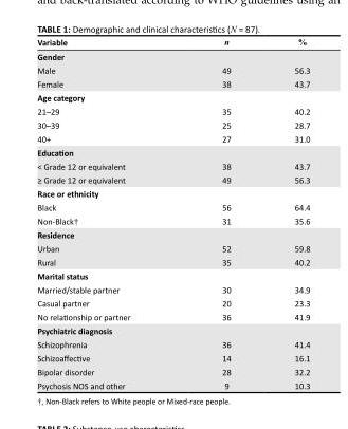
<table><thead><tr><td>Variable</td><td>n</td><td>%</td></tr></thead><tbody><tr><td colspan="3">Gender</td></tr><tr><td>Male</td><td>49</td><td>56.3</td></tr><tr><td>Female</td><td>38</td><td>43.7</td></tr><tr><td colspan="3">Age category</td></tr><tr><td>21–29</td><td>35</td><td>40.2</td></tr><tr><td>30–39</td><td>25</td><td>28.7</td></tr><tr><td>40+</td><td>27</td><td>31.0</td></tr><tr><td colspan="3">Education</td></tr><tr><td>&lt; Grade 12 or equivalent</td><td>38</td><td>43.7</td></tr><tr><td>≥ Grade 12 or equivalent</td><td>49</td><td>56.3</td></tr><tr><td colspan="3">Race or ethnicity</td></tr><tr><td>Black</td><td>56</td><td>64.4</td></tr><tr><td>Non-Black†</td><td>31</td><td>35.6</td></tr><tr><td colspan="3">Residence</td></tr><tr><td>Urban</td><td>52</td><td>59.8</td></tr><tr><td>Rural</td><td>35</td><td>40.2</td></tr><tr><td colspan="3">Marital status</td></tr><tr><td>Married/stable partner</td><td>30</td><td>34.9</td></tr><tr><td>Casual partner</td><td>20</td><td>23.3</td></tr><tr><td>No relationship or partner</td><td>36</td><td>41.9</td></tr><tr><td colspan="3">Psychiatric diagnosis</td></tr><tr><td>Schizophrenia</td><td>36</td><td>41.4</td></tr><tr><td>Schizoaffective</td><td>14</td><td>16.1</td></tr><tr><td>Bipolar disorder</td><td>28</td><td>32.2</td></tr><tr><td>Psychosis NOS and other</td><td>9</td><td>10.3</td></tr></tbody></table>